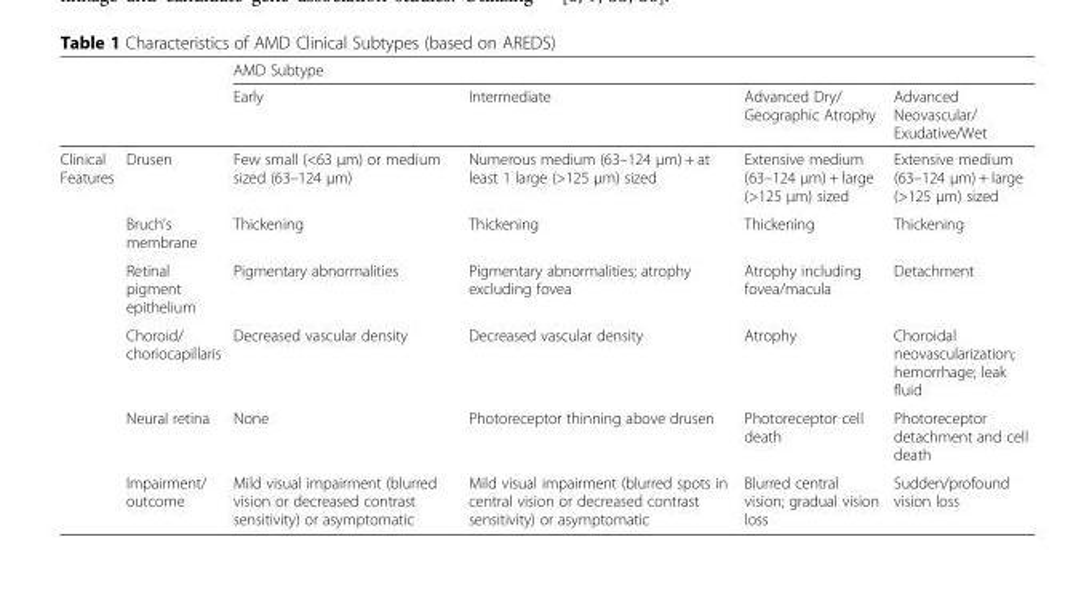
<table><thead><tr><td rowspan="2"></td><td rowspan="2"></td><td colspan="4">AMD Subtype</td></tr><tr><td>Early</td><td>Intermediate</td><td>Advanced Dry/ Geographic Atrophy</td><td>Advanced Neovascular/ Exudative/Wet</td></tr></thead><tbody><tr><td rowspan="6">Clinical Features</td><td>Drusen</td><td>Few small (&lt;63 μm) or medium sized (63–124 μm)</td><td>Numerous medium (63–124 μm) + at least 1 large (&gt;125 μm) sized</td><td>Extensive medium (63–124 μm) + large (&gt;125 μm) sized</td><td>Extensive medium (63–124 μm) + large (&gt;125 μm) sized</td></tr><tr><td>Bruch’s membrane</td><td>Thickening</td><td>Thickening</td><td>Thickening</td><td>Thickening</td></tr><tr><td>Retinal pigment epithelium</td><td>Pigmentary abnormalities</td><td>Pigmentary abnormalities; atrophy excluding fovea</td><td>Atrophy including fovea/macula</td><td>Detachment</td></tr><tr><td>Choroid/ choriocapillaris</td><td>Decreased vascular density</td><td>Decreased vascular density</td><td>Atrophy</td><td>Choroidal neovascularization; hemorrhage; leak fluid</td></tr><tr><td>Neural retina</td><td>None</td><td>Photoreceptor thinning above drusen</td><td>Photoreceptor cell death</td><td>Photoreceptor detachment and cell death</td></tr><tr><td>Impairment/ outcome</td><td>Mild visual impairment (blurred vision or decreased contrast sensitivity) or asymptomatic</td><td>Mild visual impairment (blurred spots in central vision or decreased contrast sensitivity) or asymptomatic</td><td>Blurred central vision; gradual vision loss</td><td>Sudden/profound vision loss</td></tr></tbody></table>